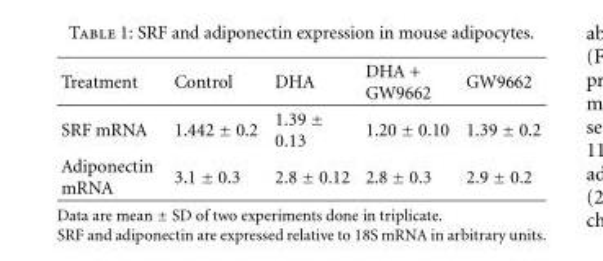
<table><thead><tr><td>Treatment</td><td>Control</td><td>DHA</td><td>DHA + GW9662</td><td>GW9662</td></tr></thead><tbody><tr><td>SRF mRNA</td><td>1.442 ± 0.2</td><td>1.39 ± 0.13</td><td>1.20 ± 0.10</td><td>1.39 ± 0.2</td></tr><tr><td>Adiponectin mRNA</td><td>3.1 ± 0.3</td><td>2.8 ± 0.12</td><td>2.8 ± 0.3</td><td>2.9 ± 0.2</td></tr></tbody></table>